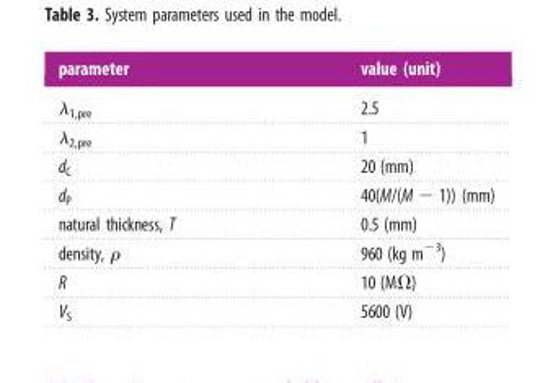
<table><thead><tr><td>parameter</td><td>value (unit)</td></tr></thead><tbody><tr><td>λ<sub>1,pre</sub></td><td>2.5</td></tr><tr><td>λ<sub>2,pre</sub></td><td>1</td></tr><tr><td>d<sub>C</sub></td><td>20 (mm)</td></tr><tr><td>d<sub>P</sub></td><td>40(M/(M − 1)) (mm)</td></tr><tr><td>natural thickness, T</td><td>0.5 (mm)</td></tr><tr><td>density, ρ</td><td>960 (kg m<sup>−3</sup>)</td></tr><tr><td>R</td><td>10 (MΩ)</td></tr><tr><td>V<sub>S</sub></td><td>5600 (V)</td></tr></tbody></table>